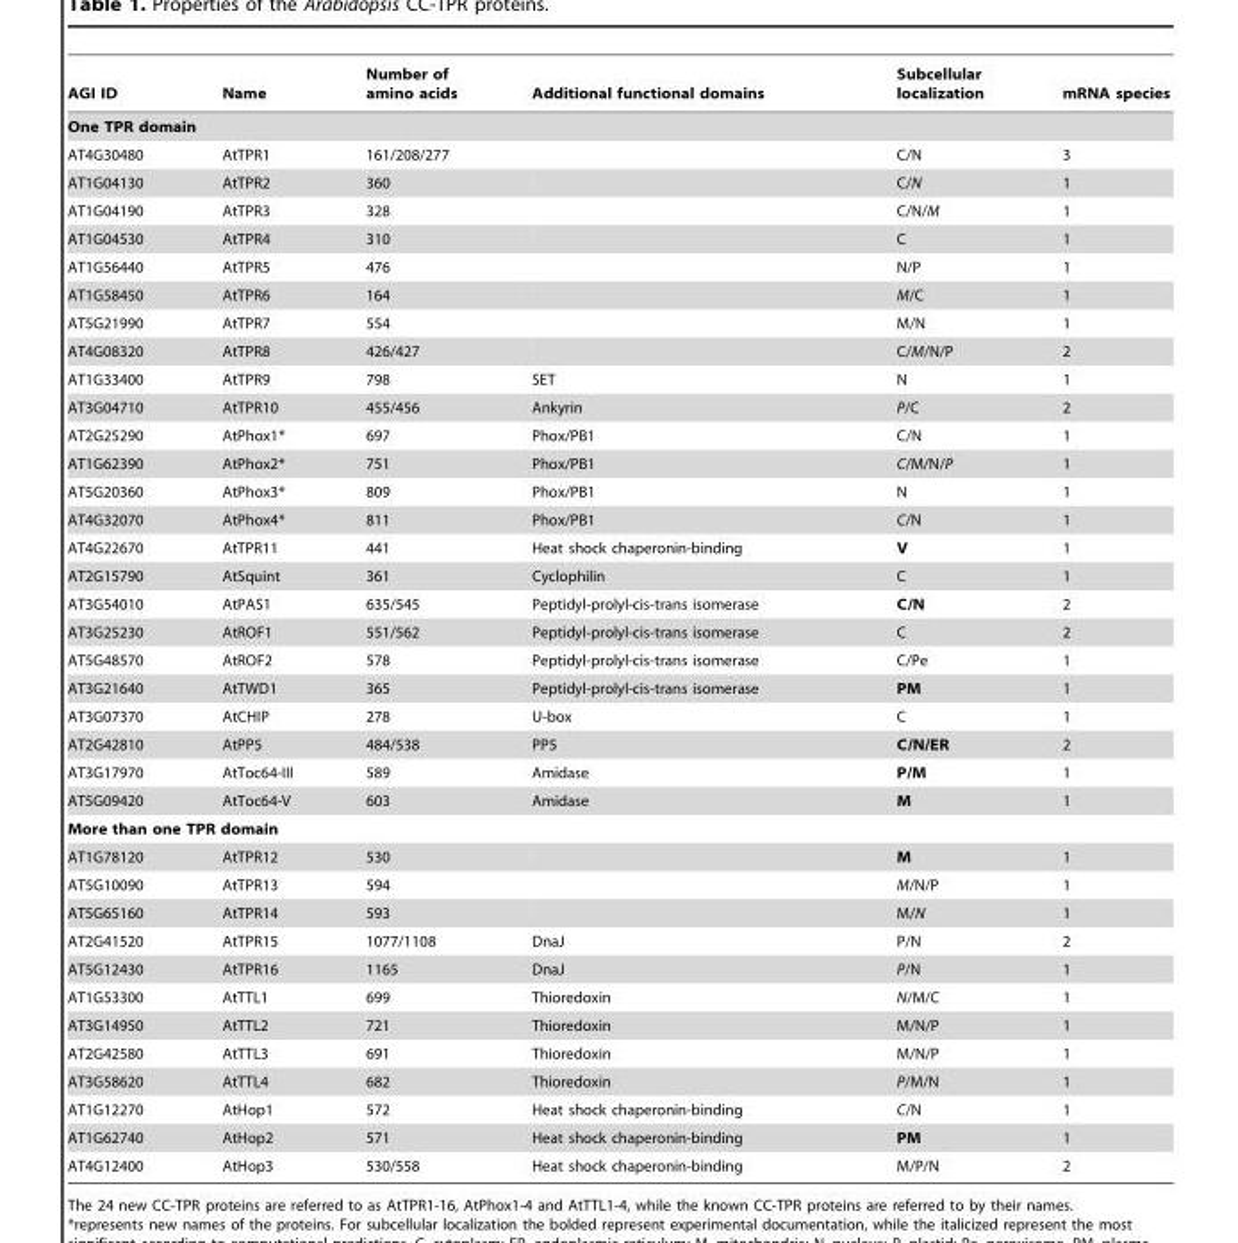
<table><thead><tr><td>AGI ID</td><td>Name</td><td>Number of amino acids</td><td>Additional functional domains</td><td>Subcellular localization</td><td>mRNA species</td></tr></thead><tbody><tr><td colspan="6">One TPR domain</td></tr><tr><td>AT4G30480</td><td>AtTPR1</td><td>161/208/277</td><td></td><td>C/N</td><td>3</td></tr><tr><td>AT1G04130</td><td>AtTPR2</td><td>360</td><td></td><td>C/N</td><td>1</td></tr><tr><td>AT1G04190</td><td>AtTPR3</td><td>328</td><td></td><td>C/N/M</td><td>1</td></tr><tr><td>AT1G04530</td><td>AtTPR4</td><td>310</td><td></td><td>C</td><td>1</td></tr><tr><td>AT1G56440</td><td>AtTPR5</td><td>476</td><td></td><td>N/P</td><td>1</td></tr><tr><td>AT1G58450</td><td>AtTPR6</td><td>164</td><td></td><td>M/C</td><td>1</td></tr><tr><td>AT5G21990</td><td>AtTPR7</td><td>554</td><td></td><td>M/N</td><td>1</td></tr><tr><td>AT4G08320</td><td>AtTPR8</td><td>426/427</td><td></td><td>C/M/N/P</td><td>2</td></tr><tr><td>AT1G33400</td><td>AtTPR9</td><td>798</td><td>SET</td><td>N</td><td>1</td></tr><tr><td>AT3G04710</td><td>AtTPR10</td><td>455/456</td><td>Ankyrin</td><td>P/C</td><td>2</td></tr><tr><td>AT2G25290</td><td>AtPhox1*</td><td>697</td><td>Phox/PB1</td><td>C/N</td><td>1</td></tr><tr><td>AT1G62390</td><td>AtPhox2*</td><td>751</td><td>Phox/PB1</td><td>C/M/N/P</td><td>1</td></tr><tr><td>AT5G20360</td><td>AtPhox3*</td><td>809</td><td>Phox/PB1</td><td>N</td><td>1</td></tr><tr><td>AT4G32070</td><td>AtPhox4*</td><td>811</td><td>Phox/PB1</td><td>C/N</td><td>1</td></tr><tr><td>AT4G22670</td><td>AtTPR11</td><td>441</td><td>Heat shock chaperonin-binding</td><td>V</td><td>1</td></tr><tr><td>AT2G15790</td><td>AtSquint</td><td>361</td><td>Cyclophilin</td><td>C</td><td>1</td></tr><tr><td>AT3G54010</td><td>AtPAS1</td><td>635/545</td><td>Peptidyl-prolyl-cis-trans isomerase</td><td>C/N</td><td>2</td></tr><tr><td>AT3G25230</td><td>AtROF1</td><td>551/562</td><td>Peptidyl-prolyl-cis-trans isomerase</td><td>C</td><td>2</td></tr><tr><td>AT5G48570</td><td>AtROF2</td><td>578</td><td>Peptidyl-prolyl-cis-trans isomerase</td><td>C/Pe</td><td>1</td></tr><tr><td>AT3G21640</td><td>AtTWD1</td><td>365</td><td>Peptidyl-prolyl-cis-trans isomerase</td><td>PM</td><td>1</td></tr><tr><td>AT3G07370</td><td>AtCHIP</td><td>278</td><td>U-box</td><td>C</td><td>1</td></tr><tr><td>AT2G42810</td><td>AtPP5</td><td>484/538</td><td>PP5</td><td>C/N/ER</td><td>2</td></tr><tr><td>AT3G17970</td><td>AtToc64-III</td><td>589</td><td>Amidase</td><td>P/M</td><td>1</td></tr><tr><td>AT5G09420</td><td>AtToc64-V</td><td>603</td><td>Amidase</td><td>M</td><td>1</td></tr><tr><td colspan="6">More than one TPR domain</td></tr><tr><td>AT1G78120</td><td>AtTPR12</td><td>530</td><td></td><td>M</td><td>1</td></tr><tr><td>AT5G10090</td><td>AtTPR13</td><td>594</td><td></td><td>M/N/P</td><td>1</td></tr><tr><td>AT5G65160</td><td>AtTPR14</td><td>593</td><td></td><td>M/N</td><td>1</td></tr><tr><td>AT2G41520</td><td>AtTPR15</td><td>1077/1108</td><td>DnaJ</td><td>P/N</td><td>2</td></tr><tr><td>AT5G12430</td><td>AtTPR16</td><td>1165</td><td>DnaJ</td><td>P/N</td><td>1</td></tr><tr><td>AT1G53300</td><td>AtTTL1</td><td>699</td><td>Thioredoxin</td><td>N/M/C</td><td>1</td></tr><tr><td>AT3G14950</td><td>AtTTL2</td><td>721</td><td>Thioredoxin</td><td>M/N/P</td><td>1</td></tr><tr><td>AT2G42580</td><td>AtTTL3</td><td>691</td><td>Thioredoxin</td><td>M/N/P</td><td>1</td></tr><tr><td>AT3G58620</td><td>AtTTL4</td><td>682</td><td>Thioredoxin</td><td>P/M/N</td><td>1</td></tr><tr><td>AT1G12270</td><td>AtHop1</td><td>572</td><td>Heat shock chaperonin-binding</td><td>C/N</td><td>1</td></tr><tr><td>AT1G62740</td><td>AtHop2</td><td>571</td><td>Heat shock chaperonin-binding</td><td>PM</td><td>1</td></tr><tr><td>AT4G12400</td><td>AtHop3</td><td>530/558</td><td>Heat shock chaperonin-binding</td><td>M/P/N</td><td>2</td></tr></tbody></table>